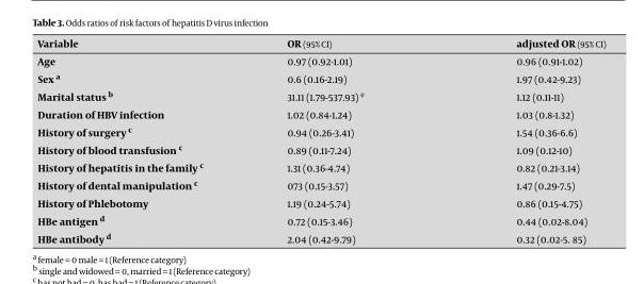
<table><thead><tr><td>Variable</td><td>OR (95% CI)</td><td>adjusted OR (95% CI)</td></tr></thead><tbody><tr><td>Age</td><td>0.97 (0.92-1.01)</td><td>0.96 (0.91-1.02)</td></tr><tr><td>Sex a</td><td>0.6 (0.16-2.19)</td><td>1.97 (0.42-9.23)</td></tr><tr><td>Marital status b</td><td>31.11 (1.79-537.93) e</td><td>1.12 (0.11-11)</td></tr><tr><td>Duration of HBV infection</td><td>1.02 (0.84-1.24)</td><td>1.03 (0.8-1.32)</td></tr><tr><td>History of surgery c</td><td>0.94 (0.26-3.41)</td><td>1.54 (0.36-6.6)</td></tr><tr><td>History of blood transfusion c</td><td>0.89 (0.11-7.24)</td><td>1.09 (0.12-10)</td></tr><tr><td>History of hepatitis in the family c</td><td>1.31 (0.36-4.74)</td><td>0.82 (0.21-3.14)</td></tr><tr><td>History of dental manipulation c</td><td>073 (0.15-3.57)</td><td>1.47 (0.29-7.5)</td></tr><tr><td>History of Phlebotomy</td><td>1.19 (0.24-5.74)</td><td>0.86 (0.15-4.75)</td></tr><tr><td>HBe antigen d</td><td>0.72 (0.15-3.46)</td><td>0.44 (0.02-8.04)</td></tr><tr><td>HBe antibody d</td><td>2.04 (0.42-9.79)</td><td>0.32 (0.02-5. 85)</td></tr></tbody></table>